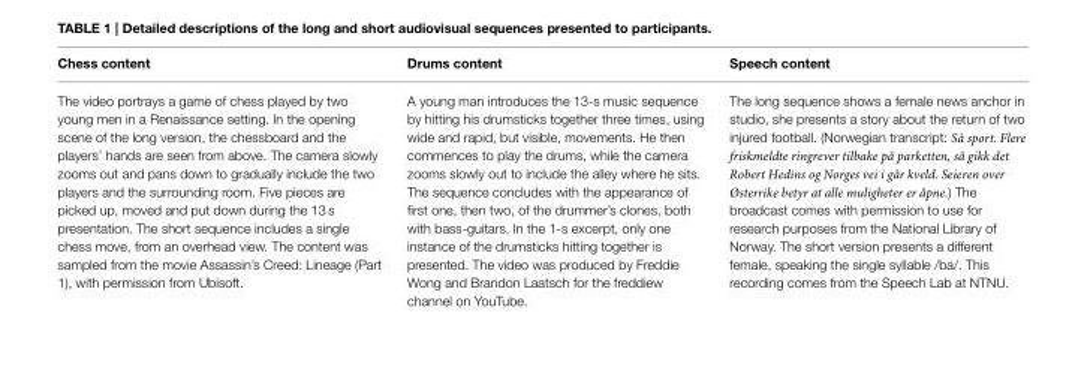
<table><thead><tr><td>Chess content</td><td>Drums content</td><td>Speech content</td></tr></thead><tbody><tr><td>The video portrays a game of chess played by two young men in a Renaissance setting. In the opening scene of the long version, the chessboard and the players’ hands are seen from above. The camera slowly zooms out and pans down to gradually include the two players and the surrounding room. Five pieces are picked up, moved and put down during the 13 s presentation. The short sequence includes a single chess move, from an overhead view. The content was sampled from the movie Assassin’s Creed: Lineage (Part 1), with permission from Ubisoft.</td><td>A young man introduces the 13-s music sequence by hitting his drumsticks together three times, using wide and rapid, but visible, movements. He then commences to play the drums, while the camera zooms slowly out to include the alley where he sits. The sequence concludes with the appearance of first one, then two, of the drummer’s clones, both with bass-guitars. In the 1-s excerpt, only one instance of the drumsticks hitting together is presented. The video was produced by Freddie Wong and Brandon Laatsch for the freddiew channel on YouTube.</td><td>The long sequence shows a female news anchor in studio, she presents a story about the return of two injured football. (Norwegian transcript: Så sport. Flere friskmeldte ringrever tilbake på parketten, så gikk det Robert Hedins og Norges vei i går kveld. Seieren over Østerrike betyr at alle muligheter er åpne.) The broadcast comes with permission to use for research purposes from the National Library of Norway. The short version presents a different female, speaking the single syllable /ba/. This recording comes from the Speech Lab at NTNU.</td></tr></tbody></table>